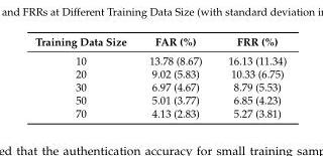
<table><thead><tr><td>Training Data Size</td><td>FAR (%)</td><td>FRR (%)</td></tr></thead><tbody><tr><td>10</td><td>13.78 (8.67)</td><td>16.13 (11.34)</td></tr><tr><td>20</td><td>9.02 (5.83)</td><td>10.33 (6.75)</td></tr><tr><td>30</td><td>6.97 (4.67)</td><td>8.79 (5.53)</td></tr><tr><td>50</td><td>5.01 (3.77)</td><td>6.85 (4.23)</td></tr><tr><td>70</td><td>4.13 (2.83)</td><td>5.27 (3.81)</td></tr></tbody></table>